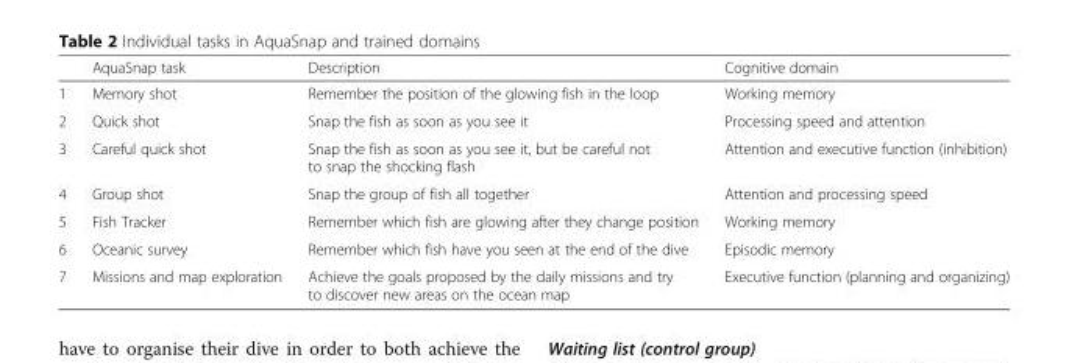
<table><thead><tr><td></td><td>AquaSnap task</td><td>Description</td><td>Cognitive domain</td></tr></thead><tbody><tr><td>1</td><td>Memory shot</td><td>Remember the position of the glowing fish in the loop</td><td>Working memory</td></tr><tr><td>2</td><td>Quick shot</td><td>Snap the fish as soon as you see it</td><td>Processing speed and attention</td></tr><tr><td>3</td><td>Careful quick shot</td><td>Snap the fish as soon as you see it, but be careful not to snap the shocking flash</td><td>Attention and executive function (inhibition)</td></tr><tr><td>4</td><td>Group shot</td><td>Snap the group of fish all together</td><td>Attention and processing speed</td></tr><tr><td>5</td><td>Fish Tracker</td><td>Remember which fish are glowing after they change position</td><td>Working memory</td></tr><tr><td>6</td><td>Oceanic survey</td><td>Remember which fish have you seen at the end of the dive</td><td>Episodic memory</td></tr><tr><td>7</td><td>Missions and map exploration</td><td>Achieve the goals proposed by the daily missions and try to discover new areas on the ocean map</td><td>Executive function (planning and organizing)</td></tr></tbody></table>